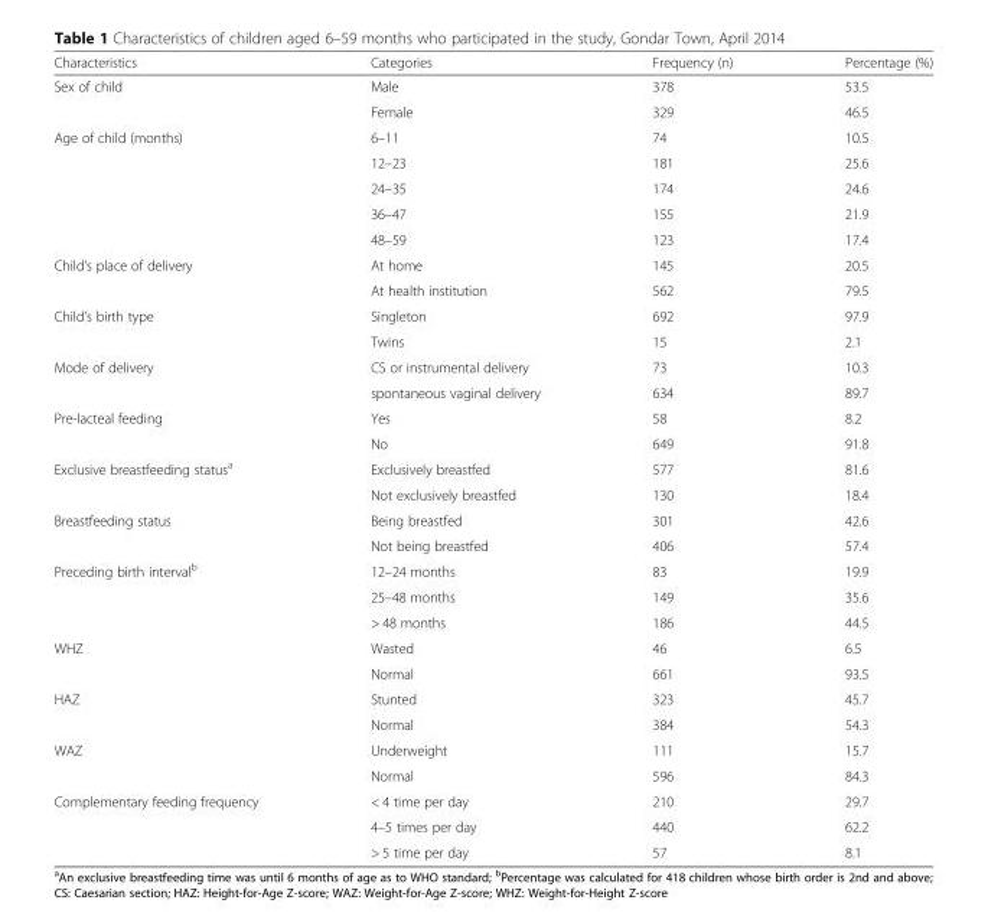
<table><thead><tr><td>Characteristics</td><td>Categories</td><td>Frequency (n)</td><td>Percentage (%)</td></tr></thead><tbody><tr><td rowspan="2">Sex of child</td><td>Male</td><td>378</td><td>53.5</td></tr><tr><td>Female</td><td>329</td><td>46.5</td></tr><tr><td rowspan="5">Age of child (months)</td><td>6–11</td><td>74</td><td>10.5</td></tr><tr><td>12–23</td><td>181</td><td>25.6</td></tr><tr><td>24–35</td><td>174</td><td>24.6</td></tr><tr><td>36–47</td><td>155</td><td>21.9</td></tr><tr><td>48–59</td><td>123</td><td>17.4</td></tr><tr><td rowspan="2">Child’s place of delivery</td><td>At home</td><td>145</td><td>20.5</td></tr><tr><td>At health institution</td><td>562</td><td>79.5</td></tr><tr><td rowspan="2">Child’s birth type</td><td>Singleton</td><td>692</td><td>97.9</td></tr><tr><td>Twins</td><td>15</td><td>2.1</td></tr><tr><td rowspan="2">Mode of delivery</td><td>CS or instrumental delivery</td><td>73</td><td>10.3</td></tr><tr><td>spontaneous vaginal delivery</td><td>634</td><td>89.7</td></tr><tr><td rowspan="2">Pre-lacteal feeding</td><td>Yes</td><td>58</td><td>8.2</td></tr><tr><td>No</td><td>649</td><td>91.8</td></tr><tr><td rowspan="2">Exclusive breastfeeding status<sup>a</sup></td><td>Exclusively breastfed</td><td>577</td><td>81.6</td></tr><tr><td>Not exclusively breastfed</td><td>130</td><td>18.4</td></tr><tr><td rowspan="2">Breastfeeding status</td><td>Being breastfed</td><td>301</td><td>42.6</td></tr><tr><td>Not being breastfed</td><td>406</td><td>57.4</td></tr><tr><td rowspan="3">Preceding birth interval<sup>b</sup></td><td>12–24 months</td><td>83</td><td>19.9</td></tr><tr><td>25–48 months</td><td>149</td><td>35.6</td></tr><tr><td>&gt; 48 months</td><td>186</td><td>44.5</td></tr><tr><td rowspan="2">WHZ</td><td>Wasted</td><td>46</td><td>6.5</td></tr><tr><td>Normal</td><td>661</td><td>93.5</td></tr><tr><td rowspan="2">HAZ</td><td>Stunted</td><td>323</td><td>45.7</td></tr><tr><td>Normal</td><td>384</td><td>54.3</td></tr><tr><td rowspan="2">WAZ</td><td>Underweight</td><td>111</td><td>15.7</td></tr><tr><td>Normal</td><td>596</td><td>84.3</td></tr><tr><td rowspan="3">Complementary feeding frequency</td><td>&lt; 4 time per day</td><td>210</td><td>29.7</td></tr><tr><td>4–5 times per day</td><td>440</td><td>62.2</td></tr><tr><td>&gt; 5 time per day</td><td>57</td><td>8.1</td></tr></tbody></table>